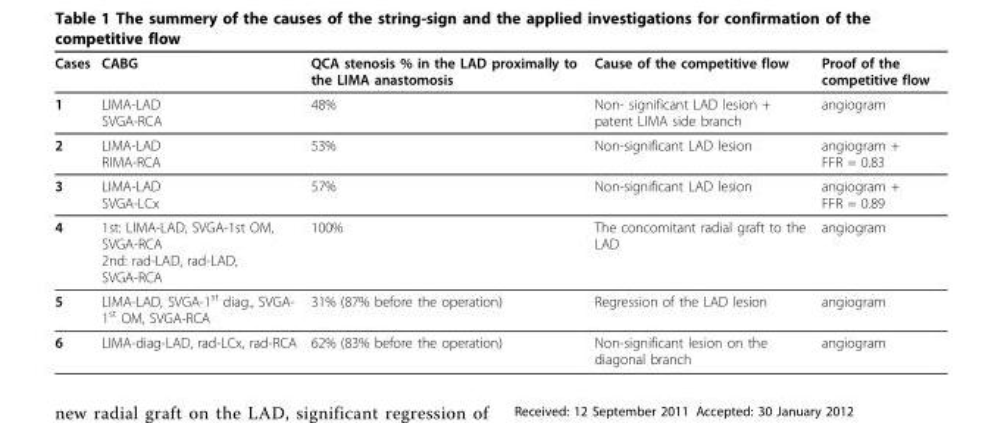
<table><thead><tr><td>Cases</td><td>CABG</td><td>QCA stenosis % in the LAD proximally to the LIMA anastomosis</td><td>Cause of the competitive flow</td><td>Proof of the competitive flow</td></tr></thead><tbody><tr><td>1</td><td>LIMA-LAD SVGA-RCA</td><td>48%</td><td>Non- significant LAD lesion + patent LIMA side branch</td><td>angiogram</td></tr><tr><td>2</td><td>LIMA-LAD RIMA-RCA</td><td>53%</td><td>Non-significant LAD lesion</td><td>angiogram + FFR = 0.83</td></tr><tr><td>3</td><td>LIMA-LAD SVGA-LCx</td><td>57%</td><td>Non-significant LAD lesion</td><td>angiogram + FFR = 0.89</td></tr><tr><td>4</td><td>1st: LIMA-LAD, SVGA-1st OM, SVGA-RCA 2nd: rad-LAD, rad-LAD, SVGA-RCA</td><td>100%</td><td>The concomitant radial graft to the LAD</td><td>angiogram</td></tr><tr><td>5</td><td>LIMA-LAD, SVGA-1<sup>st</sup> diag., SVGA- 1<sup>st</sup> OM, SVGA-RCA</td><td>31% (87% before the operation)</td><td>Regression of the LAD lesion</td><td>angiogram</td></tr><tr><td>6</td><td>LIMA-diag-LAD, rad-LCx, rad-RCA</td><td>62% (83% before the operation)</td><td>Non-significant lesion on the diagonal branch</td><td>angiogram</td></tr></tbody></table>